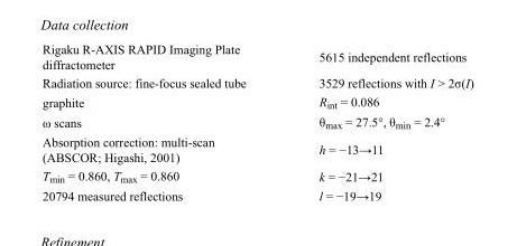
<table><tbody><tr><td>Rigaku R-AXIS RAPID Imaging Plate diffractometer</td><td>5615 independent reflections</td></tr><tr><td>Radiation source: fine-focus sealed tube</td><td>3529 reflections with I &gt; 2σ(I)</td></tr><tr><td>graphite</td><td>R<sub>int</sub> = 0.086</td></tr><tr><td>ω scans</td><td>θ<sub>max</sub> = 27.5°, θ<sub>min</sub> = 2.4°</td></tr><tr><td>Absorption correction: multi-scan (ABSCOR; Higashi, 2001)</td><td>h = −13→11</td></tr><tr><td>T<sub>min</sub> = 0.860, T<sub>max</sub> = 0.860</td><td>k = −21→21</td></tr><tr><td>20794 measured reflections</td><td>l = −19→19</td></tr></tbody></table>